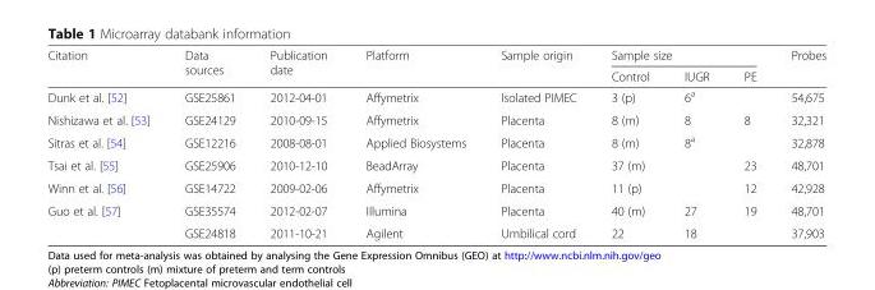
<table><thead><tr><td rowspan="2">Citation</td><td rowspan="2">Data sources</td><td rowspan="2">Publication date</td><td rowspan="2">Platform</td><td rowspan="2">Sample origin</td><td colspan="3">Sample size</td><td rowspan="2">Probes</td></tr><tr><td>Control</td><td>IUGR</td><td>PE</td></tr></thead><tbody><tr><td>Dunk et al. [52]</td><td>GSE25861</td><td>2012-04-01</td><td>Affymetrix</td><td>Isolated PIMEC</td><td>3 (p)</td><td>6<sup>a</sup></td><td></td><td>54,675</td></tr><tr><td>Nishizawa et al. [53]</td><td>GSE24129</td><td>2010-09-15</td><td>Affymetrix</td><td>Placenta</td><td>8 (m)</td><td>8</td><td>8</td><td>32,321</td></tr><tr><td>Sitras et al. [54]</td><td>GSE12216</td><td>2008-08-01</td><td>Applied Biosystems</td><td>Placenta</td><td>8 (m)</td><td>8<sup>a</sup></td><td></td><td>32,878</td></tr><tr><td>Tsai et al. [55]</td><td>GSE25906</td><td>2010-12-10</td><td>BeadArray</td><td>Placenta</td><td>37 (m)</td><td></td><td>23</td><td>48,701</td></tr><tr><td>Winn et al. [56]</td><td>GSE14722</td><td>2009-02-06</td><td>Affymetrix</td><td>Placenta</td><td>11 (p)</td><td></td><td>12</td><td>42,928</td></tr><tr><td rowspan="2">Guo et al. [57]</td><td>GSE35574</td><td>2012-02-07</td><td>Illumina</td><td>Placenta</td><td>40 (m)</td><td>27</td><td>19</td><td>48,701</td></tr><tr><td>GSE24818</td><td>2011-10-21</td><td>Agilent</td><td>Umbilical cord</td><td>22</td><td>18</td><td></td><td>37,903</td></tr></tbody></table>